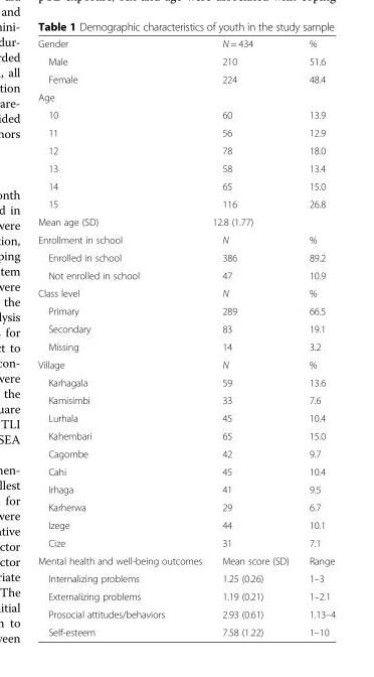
<table><tbody><tr><td>Gender</td><td>N = 434</td><td>%</td></tr><tr><td>Male</td><td>210</td><td>51.6</td></tr><tr><td>Female</td><td>224</td><td>48.4</td></tr><tr><td colspan="3">Age</td></tr><tr><td>10</td><td>60</td><td>13.9</td></tr><tr><td>11</td><td>56</td><td>12.9</td></tr><tr><td>12</td><td>78</td><td>18.0</td></tr><tr><td>13</td><td>58</td><td>13.4</td></tr><tr><td>14</td><td>65</td><td>15.0</td></tr><tr><td>15</td><td>116</td><td>26.8</td></tr><tr><td>Mean age (SD)</td><td colspan="2">12.8 (1.77)</td></tr><tr><td>Enrollment in school</td><td>N</td><td>%</td></tr><tr><td>Enrolled in school</td><td>386</td><td>89.2</td></tr><tr><td>Not enrolled in school</td><td>47</td><td>10.9</td></tr><tr><td>Class level</td><td>N</td><td>%</td></tr><tr><td>Primary</td><td>289</td><td>66.5</td></tr><tr><td>Secondary</td><td>83</td><td>19.1</td></tr><tr><td>Missing</td><td>14</td><td>3.2</td></tr><tr><td>Village</td><td>N</td><td>%</td></tr><tr><td>Karhagala</td><td>59</td><td>13.6</td></tr><tr><td>Kamisimbi</td><td>33</td><td>7.6</td></tr><tr><td>Lurhala</td><td>45</td><td>10.4</td></tr><tr><td>Kahembari</td><td>65</td><td>15.0</td></tr><tr><td>Cagombe</td><td>42</td><td>9.7</td></tr><tr><td>Cahi</td><td>45</td><td>10.4</td></tr><tr><td>Irhaga</td><td>41</td><td>9.5</td></tr><tr><td>Karherwa</td><td>29</td><td>6.7</td></tr><tr><td>Izege</td><td>44</td><td>10.1</td></tr><tr><td>Cize</td><td>31</td><td>7.1</td></tr><tr><td>Mental health and well-being outcomes</td><td>Mean score (SD)</td><td>Range</td></tr><tr><td>Internalizing problems</td><td>1.25 (0.26)</td><td>1–3</td></tr><tr><td>Externalizing problems</td><td>1.19 (0.21)</td><td>1–2.1</td></tr><tr><td>Prosocial attitudes/behaviors</td><td>2.93 (0.61)</td><td>1.13–4</td></tr><tr><td>Self-esteem</td><td>7.58 (1.22)</td><td>1–10</td></tr></tbody></table>